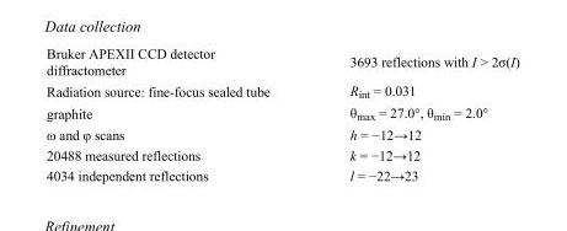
<table><tbody><tr><td>Bruker APEXII CCD detector diffractometer</td><td>3693 reflections with I &gt; 2σ(I)</td></tr><tr><td>Radiation source: fine-focus sealed tube</td><td>R<sub>int</sub> = 0.031</td></tr><tr><td>graphite</td><td>θ<sub>max</sub> = 27.0°, θ<sub>min</sub> = 2.0°</td></tr><tr><td>ω and φ scans</td><td>h = −12→12</td></tr><tr><td>20488 measured reflections</td><td>k = −12→12</td></tr><tr><td>4034 independent reflections</td><td>l = −22→23</td></tr></tbody></table>